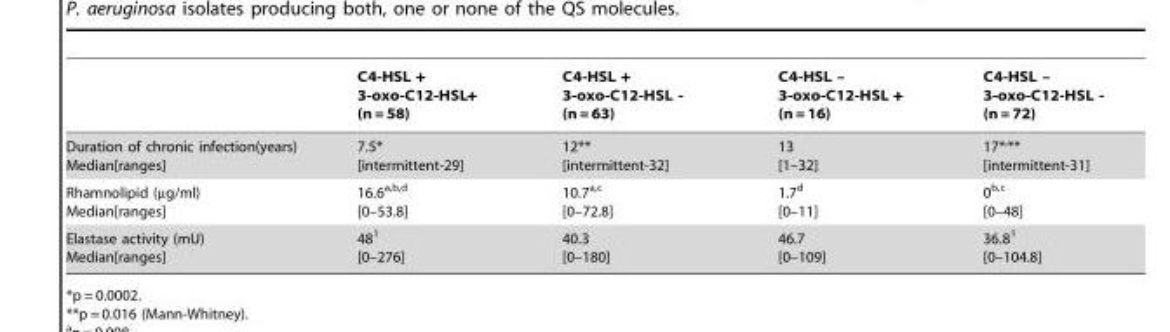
<table><thead><tr><td></td><td>C4-HSL + 3-oxo-C12-HSL+ (n = 58)</td><td>C4-HSL + 3-oxo-C12-HSL - (n = 63)</td><td>C4-HSL – 3-oxo-C12-HSL + (n = 16)</td><td>C4-HSL – 3-oxo-C12-HSL - (n = 72)</td></tr></thead><tbody><tr><td>Duration of chronic infection(years) Median[ranges]</td><td>7.5* [intermittent-29]</td><td>12** [intermittent-32]</td><td>13 [1–32]</td><td>17*<sup>,</sup>** [intermittent-31]</td></tr><tr><td>Rhamnolipid (µg/ml) Median[ranges]</td><td>16.6<sup>a,</sup>b<sup>,</sup>d [0–53.8]</td><td>10.7<sup>a,</sup>c [0–72.8]</td><td>1.7<sup>d</sup> [0–11]</td><td>0<sup>b,</sup>c [0–48]</td></tr><tr><td>Elastase activity (mU) Median[ranges]</td><td>48<sup>1</sup> [0–276]</td><td>40.3 [0–180]</td><td>46.7 [0–109]</td><td>36.8<sup>1</sup> [0–104.8]</td></tr></tbody></table>